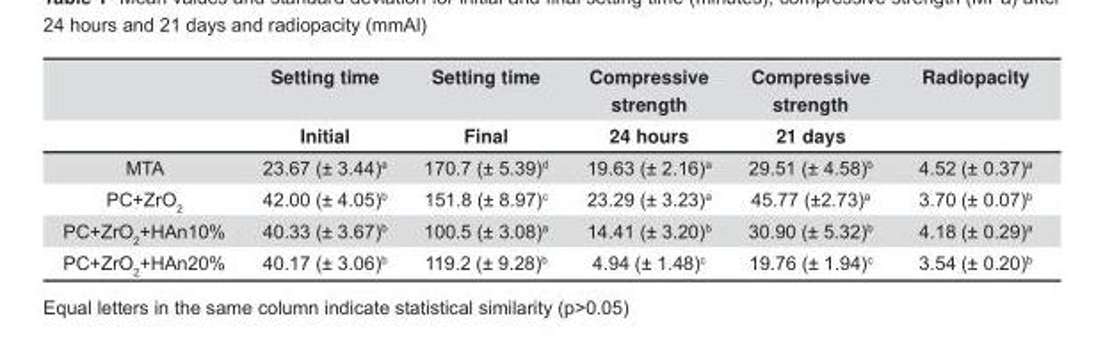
<table><thead><tr><td rowspan="2"></td><td rowspan="2">Setting time Initial</td><td rowspan="2">Setting time Final</td><td rowspan="2">Compressive strength 24 hours</td><td rowspan="2">Compressive strength 21 days</td><td rowspan="2">Radiopacity</td></tr><tr></tr></thead><tbody><tr><td>MTA</td><td>23.67 (± 3.44)<sup>a</sup></td><td>170.7 (± 5.39)<sup>d</sup></td><td>19.63 (± 2.16)<sup>a</sup></td><td>29.51 (± 4.58)<sup>b</sup></td><td>4.52 (± 0.37)<sup>a</sup></td></tr><tr><td>PC+ZrO<sub>2</sub></td><td>42.00 (± 4.05)<sup>b</sup></td><td>151.8 (± 8.97)<sup>c</sup></td><td>23.29 (± 3.23)<sup>a</sup></td><td>45.77 (±2.73)<sup>a</sup></td><td>3.70 (± 0.07)<sup>b</sup></td></tr><tr><td>PC+ZrO<sub>2</sub>+HAn10%</td><td>40.33 (± 3.67)<sup>b</sup></td><td>100.5 (± 3.08)<sup>a</sup></td><td>14.41 (± 3.20)<sup>b</sup></td><td>30.90 (± 5.32)<sup>b</sup></td><td>4.18 (± 0.29)<sup>a</sup></td></tr><tr><td>PC+ZrO<sub>2</sub>+HAn20%</td><td>40.17 (± 3.06)<sup>b</sup></td><td>119.2 (± 9.28)<sup>b</sup></td><td>4.94 (± 1.48)<sup>c</sup></td><td>19.76 (± 1.94)<sup>c</sup></td><td>3.54 (± 0.20)<sup>b</sup></td></tr></tbody></table>